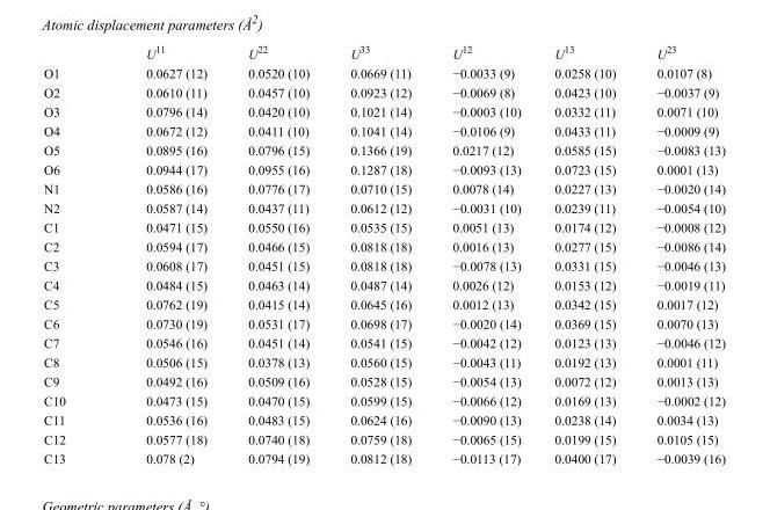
<table><thead><tr><td></td><td>U<sup>11</sup></td><td>U<sup>22</sup></td><td>U<sup>33</sup></td><td>U<sup>12</sup></td><td>U<sup>13</sup></td><td>U<sup>23</sup></td></tr></thead><tbody><tr><td>O1</td><td>0.0627 (12)</td><td>0.0520 (10)</td><td>0.0669 (11)</td><td>−0.0033 (9)</td><td>0.0258 (10)</td><td>0.0107 (8)</td></tr><tr><td>O2</td><td>0.0610 (11)</td><td>0.0457 (10)</td><td>0.0923 (12)</td><td>−0.0069 (8)</td><td>0.0423 (10)</td><td>−0.0037 (9)</td></tr><tr><td>O3</td><td>0.0796 (14)</td><td>0.0420 (10)</td><td>0.1021 (14)</td><td>−0.0003 (10)</td><td>0.0332 (11)</td><td>0.0071 (10)</td></tr><tr><td>O4</td><td>0.0672 (12)</td><td>0.0411 (10)</td><td>0.1041 (14)</td><td>−0.0106 (9)</td><td>0.0433 (11)</td><td>−0.0009 (9)</td></tr><tr><td>O5</td><td>0.0895 (16)</td><td>0.0796 (15)</td><td>0.1366 (19)</td><td>0.0217 (12)</td><td>0.0585 (15)</td><td>−0.0083 (13)</td></tr><tr><td>O6</td><td>0.0944 (17)</td><td>0.0955 (16)</td><td>0.1287 (18)</td><td>−0.0093 (13)</td><td>0.0723 (15)</td><td>0.0001 (13)</td></tr><tr><td>N1</td><td>0.0586 (16)</td><td>0.0776 (17)</td><td>0.0710 (15)</td><td>0.0078 (14)</td><td>0.0227 (13)</td><td>−0.0020 (14)</td></tr><tr><td>N2</td><td>0.0587 (14)</td><td>0.0437 (11)</td><td>0.0612 (12)</td><td>−0.0031 (10)</td><td>0.0239 (11)</td><td>−0.0054 (10)</td></tr><tr><td>C1</td><td>0.0471 (15)</td><td>0.0550 (16)</td><td>0.0535 (15)</td><td>0.0051 (13)</td><td>0.0174 (12)</td><td>−0.0008 (12)</td></tr><tr><td>C2</td><td>0.0594 (17)</td><td>0.0466 (15)</td><td>0.0818 (18)</td><td>0.0016 (13)</td><td>0.0277 (15)</td><td>−0.0086 (14)</td></tr><tr><td>C3</td><td>0.0608 (17)</td><td>0.0451 (15)</td><td>0.0818 (18)</td><td>−0.0078 (13)</td><td>0.0331 (15)</td><td>−0.0046 (13)</td></tr><tr><td>C4</td><td>0.0484 (15)</td><td>0.0463 (14)</td><td>0.0487 (14)</td><td>0.0026 (12)</td><td>0.0153 (12)</td><td>−0.0019 (11)</td></tr><tr><td>C5</td><td>0.0762 (19)</td><td>0.0415 (14)</td><td>0.0645 (16)</td><td>0.0012 (13)</td><td>0.0342 (15)</td><td>0.0017 (12)</td></tr><tr><td>C6</td><td>0.0730 (19)</td><td>0.0531 (17)</td><td>0.0698 (17)</td><td>−0.0020 (14)</td><td>0.0369 (15)</td><td>0.0070 (13)</td></tr><tr><td>C7</td><td>0.0546 (16)</td><td>0.0451 (14)</td><td>0.0541 (15)</td><td>−0.0042 (12)</td><td>0.0123 (13)</td><td>−0.0046 (12)</td></tr><tr><td>C8</td><td>0.0506 (15)</td><td>0.0378 (13)</td><td>0.0560 (15)</td><td>−0.0043 (11)</td><td>0.0192 (13)</td><td>0.0001 (11)</td></tr><tr><td>C9</td><td>0.0492 (16)</td><td>0.0509 (16)</td><td>0.0528 (15)</td><td>−0.0054 (13)</td><td>0.0072 (12)</td><td>0.0013 (13)</td></tr><tr><td>C10</td><td>0.0473 (15)</td><td>0.0470 (15)</td><td>0.0599 (15)</td><td>−0.0066 (12)</td><td>0.0169 (13)</td><td>−0.0002 (12)</td></tr><tr><td>C11</td><td>0.0536 (16)</td><td>0.0483 (15)</td><td>0.0624 (16)</td><td>−0.0090 (13)</td><td>0.0238 (14)</td><td>0.0034 (13)</td></tr><tr><td>C12</td><td>0.0577 (18)</td><td>0.0740 (18)</td><td>0.0759 (18)</td><td>−0.0065 (15)</td><td>0.0199 (15)</td><td>0.0105 (15)</td></tr><tr><td>C13</td><td>0.078 (2)</td><td>0.0794 (19)</td><td>0.0812 (18)</td><td>−0.0113 (17)</td><td>0.0400 (17)</td><td>−0.0039 (16)</td></tr></tbody></table>